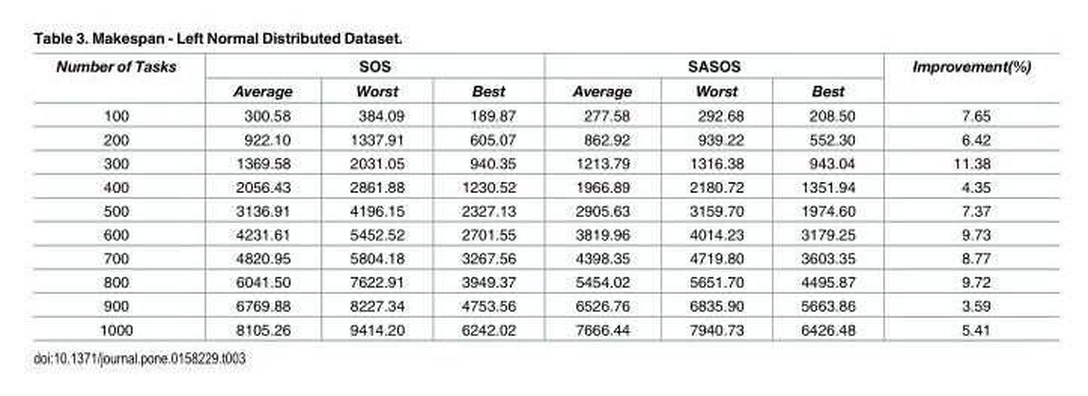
<table><thead><tr><td rowspan="2">Number of Tasks</td><td colspan="3">SOS</td><td colspan="3">SASOS</td><td rowspan="2">Improvement(%)</td></tr><tr><td>Average</td><td>Worst</td><td>Best</td><td>Average</td><td>Worst</td><td>Best</td></tr></thead><tbody><tr><td>100</td><td>300.58</td><td>384.09</td><td>189.87</td><td>277.58</td><td>292.68</td><td>208.50</td><td>7.65</td></tr><tr><td>200</td><td>922.10</td><td>1337.91</td><td>605.07</td><td>862.92</td><td>939.22</td><td>552.30</td><td>6.42</td></tr><tr><td>300</td><td>1369.58</td><td>2031.05</td><td>940.35</td><td>1213.79</td><td>1316.38</td><td>943.04</td><td>11.38</td></tr><tr><td>400</td><td>2056.43</td><td>2861.88</td><td>1230.52</td><td>1966.89</td><td>2180.72</td><td>1351.94</td><td>4.35</td></tr><tr><td>500</td><td>3136.91</td><td>4196.15</td><td>2327.13</td><td>2905.63</td><td>3159.70</td><td>1974.60</td><td>7.37</td></tr><tr><td>600</td><td>4231.61</td><td>5452.52</td><td>2701.55</td><td>3819.96</td><td>4014.23</td><td>3179.25</td><td>9.73</td></tr><tr><td>700</td><td>4820.95</td><td>5804.18</td><td>3267.56</td><td>4398.35</td><td>4719.80</td><td>3603.35</td><td>8.77</td></tr><tr><td>800</td><td>6041.50</td><td>7622.91</td><td>3949.37</td><td>5454.02</td><td>5651.70</td><td>4495.87</td><td>9.72</td></tr><tr><td>900</td><td>6769.88</td><td>8227.34</td><td>4753.56</td><td>6526.76</td><td>6835.90</td><td>5663.86</td><td>3.59</td></tr><tr><td>1000</td><td>8105.26</td><td>9414.20</td><td>6242.02</td><td>7666.44</td><td>7940.73</td><td>6426.48</td><td>5.41</td></tr></tbody></table>